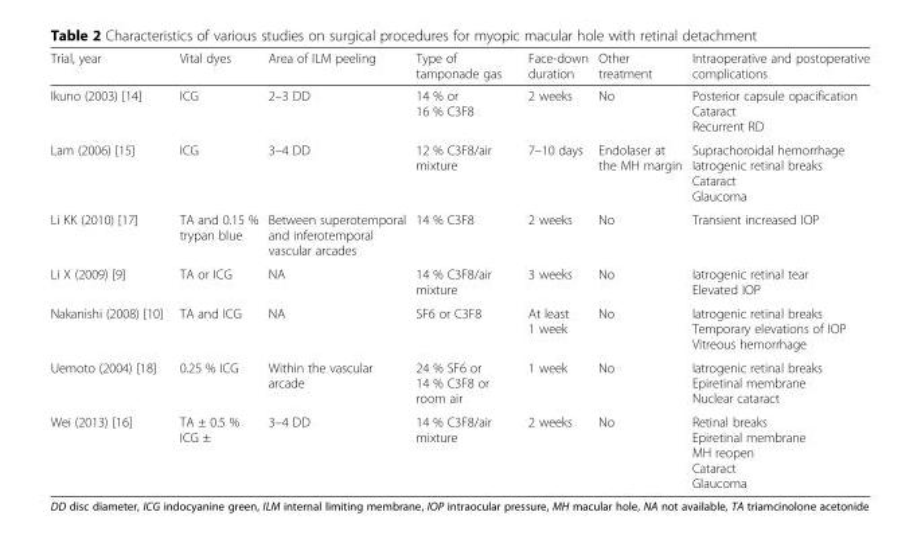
<table><thead><tr><td>Trial, year</td><td>Vital dyes</td><td>Area of ILM peeling</td><td>Type of tamponade gas</td><td>Face-down duration</td><td>Other treatment</td><td>Intraoperative and postoperative complications</td></tr></thead><tbody><tr><td>Ikuno (2003) [14]</td><td>ICG</td><td>2–3 DD</td><td>14 % or 16 % C3F8</td><td>2 weeks</td><td>No</td><td>Posterior capsule opacification Cataract Recurrent RD</td></tr><tr><td>Lam (2006) [15]</td><td>ICG</td><td>3–4 DD</td><td>12 % C3F8/air mixture</td><td>7–10 days</td><td>Endolaser at the MH margin</td><td>Suprachoroidal hemorrhage Iatrogenic retinal breaks Cataract Glaucoma</td></tr><tr><td>Li KK (2010) [17]</td><td>TA and 0.15 % trypan blue</td><td>Between superotemporal and inferotemporal vascular arcades</td><td>14 % C3F8</td><td>2 weeks</td><td>No</td><td>Transient increased IOP</td></tr><tr><td>Li X (2009) [9]</td><td>TA or ICG</td><td>NA</td><td>14 % C3F8/air mixture</td><td>3 weeks</td><td>No</td><td>Iatrogenic retinal tear Elevated IOP</td></tr><tr><td>Nakanishi (2008) [10]</td><td>TA and ICG</td><td>NA</td><td>SF6 or C3F8</td><td>At least 1 week</td><td>No</td><td>Iatrogenic retinal breaks Temporary elevations of IOP Vitreous hemorrhage</td></tr><tr><td>Uemoto (2004) [18]</td><td>0.25 % ICG</td><td>Within the vascular arcade</td><td>24 % SF6 or 14 % C3F8 or room air</td><td>1 week</td><td>No</td><td>Iatrogenic retinal breaks Epiretinal membrane Nuclear cataract</td></tr><tr><td>Wei (2013) [16]</td><td>TA ± 0.5 % ICG ±</td><td>3–4 DD</td><td>14 % C3F8/air mixture</td><td>2 weeks</td><td>No</td><td>Retinal breaks Epiretinal membrane MH reopen Cataract Glaucoma</td></tr></tbody></table>